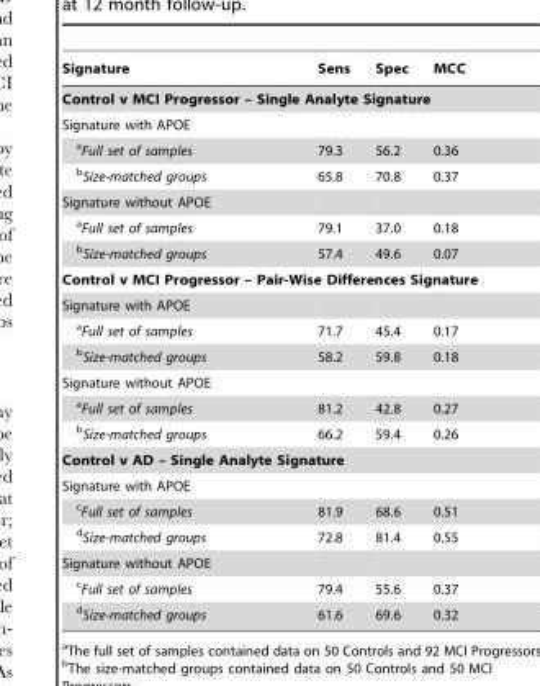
<table><thead><tr><td>Signature</td><td>Sens</td><td>Spec</td><td>MCC</td></tr></thead><tbody><tr><td colspan="4">Control v MCI Progressor – Single Analyte Signature</td></tr><tr><td colspan="4">Signature with APOE</td></tr><tr><td>aFull set of samples</td><td>79.3</td><td>56.2</td><td>0.36</td></tr><tr><td>bSize-matched groups</td><td>65.8</td><td>70.8</td><td>0.37</td></tr><tr><td colspan="4">Signature without APOE</td></tr><tr><td>aFull set of samples</td><td>79.1</td><td>37.0</td><td>0.18</td></tr><tr><td>bSize-matched groups</td><td>57.4</td><td>49.6</td><td>0.07</td></tr><tr><td colspan="4">Control v MCI Progressor – Pair-Wise Differences Signature</td></tr><tr><td colspan="4">Signature with APOE</td></tr><tr><td>aFull set of samples</td><td>71.7</td><td>45.4</td><td>0.17</td></tr><tr><td>bSize-matched groups</td><td>58.2</td><td>59.8</td><td>0.18</td></tr><tr><td colspan="4">Signature without APOE</td></tr><tr><td>aFull set of samples</td><td>81.2</td><td>42.8</td><td>0.27</td></tr><tr><td>bSize-matched groups</td><td>66.2</td><td>59.4</td><td>0.26</td></tr><tr><td colspan="4">Control v AD – Single Analyte Signature</td></tr><tr><td colspan="4">Signature with APOE</td></tr><tr><td>cFull set of samples</td><td>81.9</td><td>68.6</td><td>0.51</td></tr><tr><td>dSize-matched groups</td><td>72.8</td><td>81.4</td><td>0.55</td></tr><tr><td colspan="4">Signature without APOE</td></tr><tr><td>cFull set of samples</td><td>79.4</td><td>55.6</td><td>0.37</td></tr><tr><td>dSize-matched groups</td><td>61.6</td><td>69.6</td><td>0.32</td></tr></tbody></table>